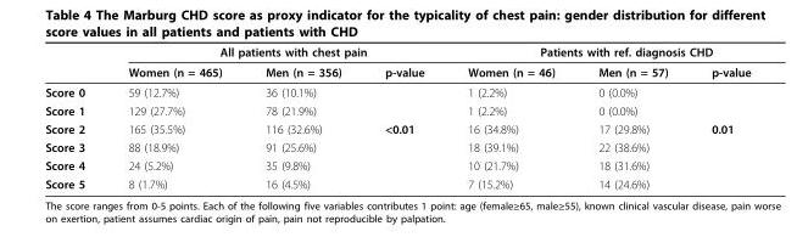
<table><thead><tr><td rowspan="2"></td><td colspan="3">All patients with chest pain</td><td colspan="3">Patients with ref. diagnosis CHD</td></tr><tr><td>Women (n = 465)</td><td>Men (n = 356)</td><td>p-value</td><td>Women (n = 46)</td><td>Men (n = 57)</td><td>p-value</td></tr></thead><tbody><tr><td>Score 0</td><td>59 (12.7%)</td><td>36 (10.1%)</td><td></td><td>1 (2.2%)</td><td>0 (0.0%)</td><td></td></tr><tr><td>Score 1</td><td>129 (27.7%)</td><td>78 (21.9%)</td><td></td><td>1 (2.2%)</td><td>0 (0.0%)</td><td></td></tr><tr><td>Score 2</td><td>165 (35.5%)</td><td>116 (32.6%)</td><td>&lt;0.01</td><td>16 (34.8%)</td><td>17 (29.8%)</td><td>0.01</td></tr><tr><td>Score 3</td><td>88 (18.9%)</td><td>91 (25.6%)</td><td></td><td>18 (39.1%)</td><td>22 (38.6%)</td><td></td></tr><tr><td>Score 4</td><td>24 (5.2%)</td><td>35 (9.8%)</td><td></td><td>10 (21.7%)</td><td>18 (31.6%)</td><td></td></tr><tr><td>Score 5</td><td>8 (1.7%)</td><td>16 (4.5%)</td><td></td><td>7 (15.2%)</td><td>14 (24.6%)</td><td></td></tr></tbody></table>